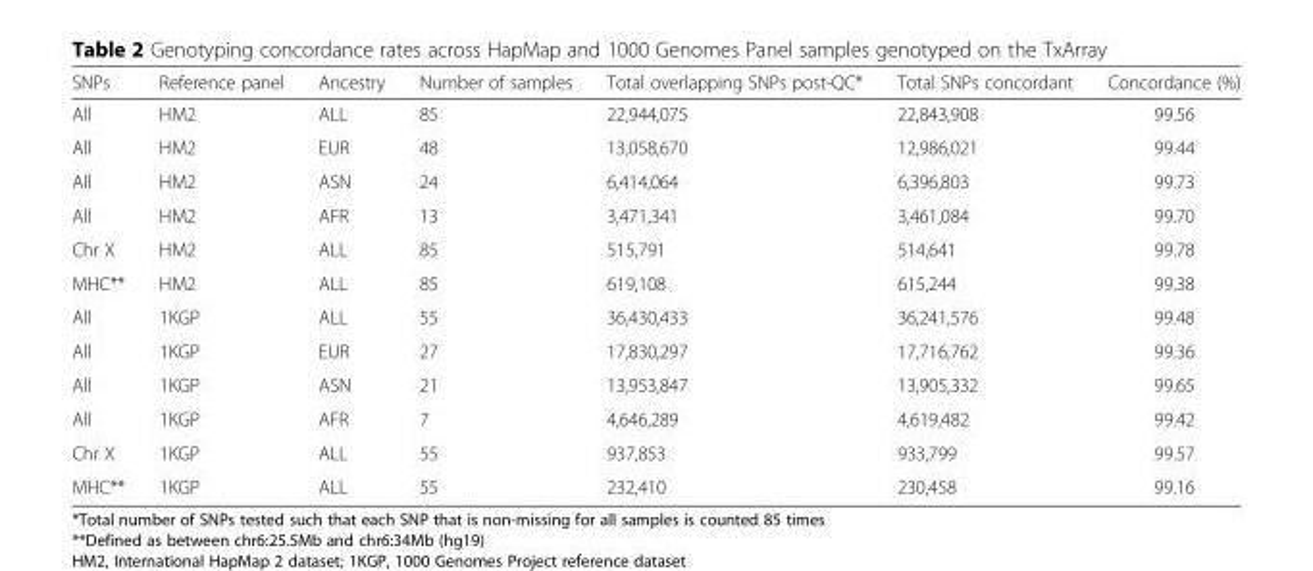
<table><thead><tr><td>SNPs</td><td>Reference panel</td><td>Ancestry</td><td>Number of samples</td><td>Total overlapping SNPs post-QC*</td><td>Total SNPs concordant</td><td>Concordance (%)</td></tr></thead><tbody><tr><td>All</td><td>HM2</td><td>ALL</td><td>85</td><td>22,944,075</td><td>22,843,908</td><td>99.56</td></tr><tr><td>All</td><td>HM2</td><td>EUR</td><td>48</td><td>13,058,670</td><td>12,986,021</td><td>99.44</td></tr><tr><td>All</td><td>HM2</td><td>ASN</td><td>24</td><td>6,414,064</td><td>6,396,803</td><td>99.73</td></tr><tr><td>All</td><td>HM2</td><td>AFR</td><td>13</td><td>3,471,341</td><td>3,461,084</td><td>99.70</td></tr><tr><td>Chr X</td><td>HM2</td><td>ALL</td><td>85</td><td>515,791</td><td>514,641</td><td>99.78</td></tr><tr><td>MHC**</td><td>HM2</td><td>ALL</td><td>85</td><td>619,108</td><td>615,244</td><td>99.38</td></tr><tr><td>All</td><td>1KGP</td><td>ALL</td><td>55</td><td>36,430,433</td><td>36,241,576</td><td>99.48</td></tr><tr><td>All</td><td>1KGP</td><td>EUR</td><td>27</td><td>17,830,297</td><td>17,716,762</td><td>99.36</td></tr><tr><td>All</td><td>1KGP</td><td>ASN</td><td>21</td><td>13,953,847</td><td>13,905,332</td><td>99.65</td></tr><tr><td>All</td><td>1KGP</td><td>AFR</td><td>7</td><td>4,646,289</td><td>4,619,482</td><td>99.42</td></tr><tr><td>Chr X</td><td>1KGP</td><td>ALL</td><td>55</td><td>937,853</td><td>933,799</td><td>99.57</td></tr><tr><td>MHC**</td><td>1KGP</td><td>ALL</td><td>55</td><td>232,410</td><td>230,458</td><td>99.16</td></tr></tbody></table>